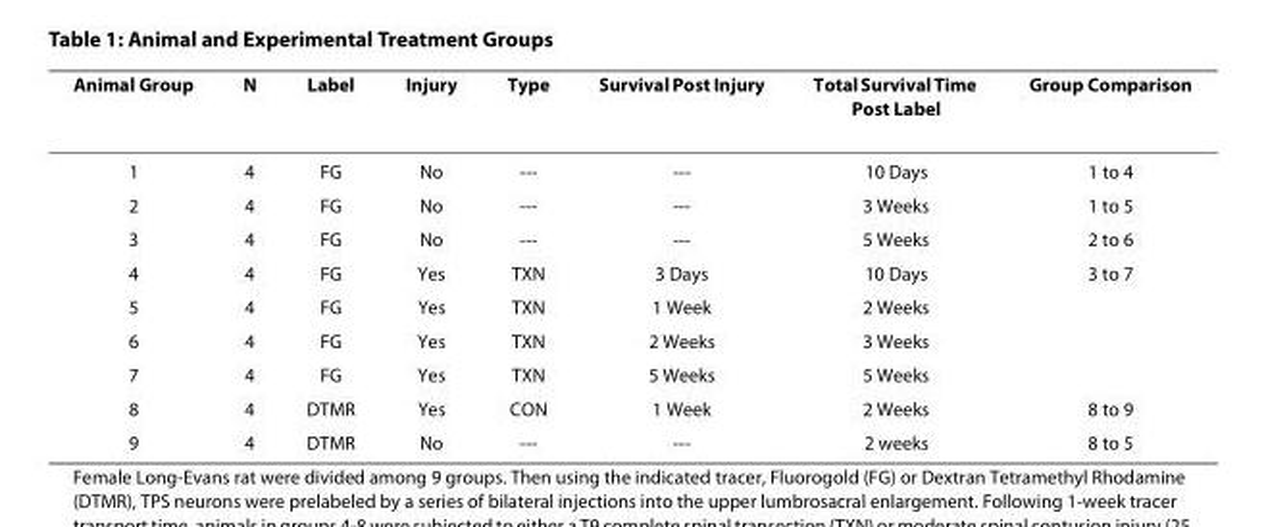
<table><thead><tr><td>Animal Group</td><td>N</td><td>Label</td><td>Injury</td><td>Type</td><td>Survival Post Injury</td><td>Total Survival Time Post Label</td><td>Group Comparison</td></tr></thead><tbody><tr><td>1</td><td>4</td><td>FG</td><td>No</td><td>---</td><td>---</td><td>10 Days</td><td>1 to 4</td></tr><tr><td>2</td><td>4</td><td>FG</td><td>No</td><td>---</td><td>---</td><td>3 Weeks</td><td>1 to 5</td></tr><tr><td>3</td><td>4</td><td>FG</td><td>No</td><td>---</td><td>---</td><td>5 Weeks</td><td>2 to 6</td></tr><tr><td>4</td><td>4</td><td>FG</td><td>Yes</td><td>TXN</td><td>3 Days</td><td>10 Days</td><td>3 to 7</td></tr><tr><td>5</td><td>4</td><td>FG</td><td>Yes</td><td>TXN</td><td>1 Week</td><td>2 Weeks</td><td></td></tr><tr><td>6</td><td>4</td><td>FG</td><td>Yes</td><td>TXN</td><td>2 Weeks</td><td>3 Weeks</td><td></td></tr><tr><td>7</td><td>4</td><td>FG</td><td>Yes</td><td>TXN</td><td>5 Weeks</td><td>5 Weeks</td><td></td></tr><tr><td>8</td><td>4</td><td>DTMR</td><td>Yes</td><td>CON</td><td>1 Week</td><td>2 Weeks</td><td>8 to 9</td></tr><tr><td>9</td><td>4</td><td>DTMR</td><td>No</td><td>---</td><td>---</td><td>2 weeks</td><td>8 to 5</td></tr></tbody></table>